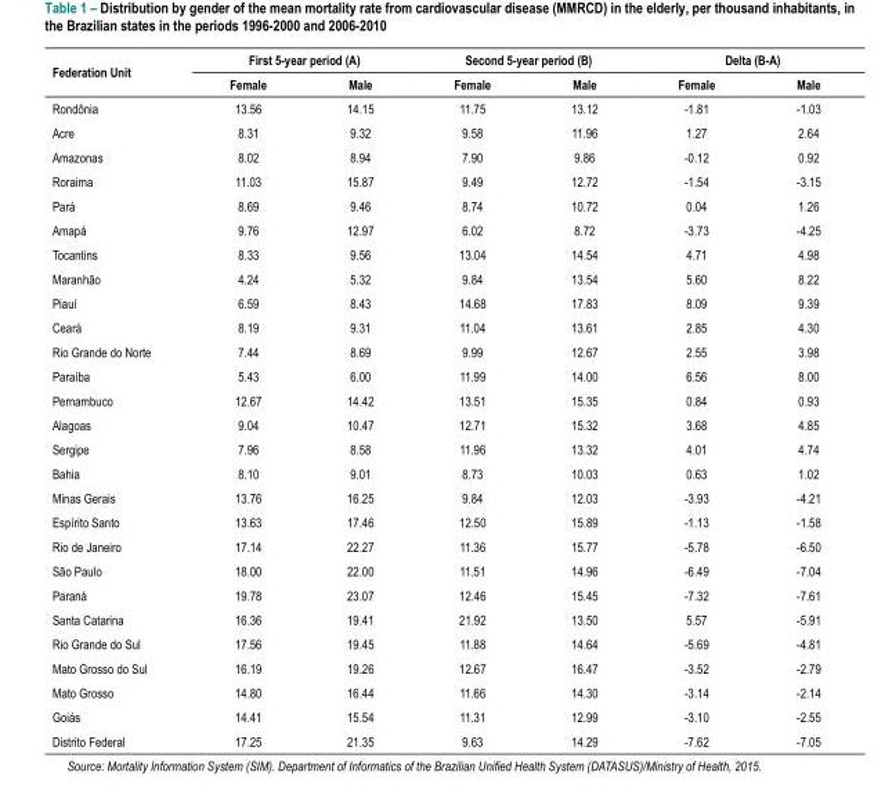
<table><thead><tr><td rowspan="2">Federation Unit</td><td colspan="2">First 5-year period (A)</td><td colspan="2">Second 5-year period (B)</td><td colspan="2">Delta (B-A)</td></tr><tr><td>Female</td><td>Male</td><td>Female</td><td>Male</td><td>Female</td><td>Male</td></tr></thead><tbody><tr><td>Rondônia</td><td>13.56</td><td>14.15</td><td>11.75</td><td>13.12</td><td>-1.81</td><td>-1.03</td></tr><tr><td>Acre</td><td>8.31</td><td>9.32</td><td>9.58</td><td>11.96</td><td>1.27</td><td>2.64</td></tr><tr><td>Amazonas</td><td>8.02</td><td>8.94</td><td>7.90</td><td>9.86</td><td>-0.12</td><td>0.92</td></tr><tr><td>Roraima</td><td>11.03</td><td>15.87</td><td>9.49</td><td>12.72</td><td>-1.54</td><td>-3.15</td></tr><tr><td>Pará</td><td>8.69</td><td>9.46</td><td>8.74</td><td>10.72</td><td>0.04</td><td>1.26</td></tr><tr><td>Amapá</td><td>9.76</td><td>12.97</td><td>6.02</td><td>8.72</td><td>-3.73</td><td>-4.25</td></tr><tr><td>Tocantins</td><td>8.33</td><td>9.56</td><td>13.04</td><td>14.54</td><td>4.71</td><td>4.98</td></tr><tr><td>Maranhão</td><td>4.24</td><td>5.32</td><td>9.84</td><td>13.54</td><td>5.60</td><td>8.22</td></tr><tr><td>Piauí</td><td>6.59</td><td>8.43</td><td>14.68</td><td>17.83</td><td>8.09</td><td>9.39</td></tr><tr><td>Ceará</td><td>8.19</td><td>9.31</td><td>11.04</td><td>13.61</td><td>2.85</td><td>4.30</td></tr><tr><td>Rio Grande do Norte</td><td>7.44</td><td>8.69</td><td>9.99</td><td>12.67</td><td>2.55</td><td>3.98</td></tr><tr><td>Paraíba</td><td>5.43</td><td>6.00</td><td>11.99</td><td>14.00</td><td>6.56</td><td>8.00</td></tr><tr><td>Pernambuco</td><td>12.67</td><td>14.42</td><td>13.51</td><td>15.35</td><td>0.84</td><td>0.93</td></tr><tr><td>Alagoas</td><td>9.04</td><td>10.47</td><td>12.71</td><td>15.32</td><td>3.68</td><td>4.85</td></tr><tr><td>Sergipe</td><td>7.96</td><td>8.58</td><td>11.96</td><td>13.32</td><td>4.01</td><td>4.74</td></tr><tr><td>Bahia</td><td>8.10</td><td>9.01</td><td>8.73</td><td>10.03</td><td>0.63</td><td>1.02</td></tr><tr><td>Minas Gerais</td><td>13.76</td><td>16.25</td><td>9.84</td><td>12.03</td><td>-3.93</td><td>-4.21</td></tr><tr><td>Espírito Santo</td><td>13.63</td><td>17.46</td><td>12.50</td><td>15.89</td><td>-1.13</td><td>-1.58</td></tr><tr><td>Rio de Janeiro</td><td>17.14</td><td>22.27</td><td>11.36</td><td>15.77</td><td>-5.78</td><td>-6.50</td></tr><tr><td>São Paulo</td><td>18.00</td><td>22.00</td><td>11.51</td><td>14.96</td><td>-6.49</td><td>-7.04</td></tr><tr><td>Paraná</td><td>19.78</td><td>23.07</td><td>12.46</td><td>15.45</td><td>-7.32</td><td>-7.61</td></tr><tr><td>Santa Catarina</td><td>16.36</td><td>19.41</td><td>21.92</td><td>13.50</td><td>5.57</td><td>-5.91</td></tr><tr><td>Rio Grande do Sul</td><td>17.56</td><td>19.45</td><td>11.88</td><td>14.64</td><td>-5.69</td><td>-4.81</td></tr><tr><td>Mato Grosso do Sul</td><td>16.19</td><td>19.26</td><td>12.67</td><td>16.47</td><td>-3.52</td><td>-2.79</td></tr><tr><td>Mato Grosso</td><td>14.80</td><td>16.44</td><td>11.66</td><td>14.30</td><td>-3.14</td><td>-2.14</td></tr><tr><td>Goiás</td><td>14.41</td><td>15.54</td><td>11.31</td><td>12.99</td><td>-3.10</td><td>-2.55</td></tr><tr><td>Distrito Federal</td><td>17.25</td><td>21.35</td><td>9.63</td><td>14.29</td><td>-7.62</td><td>-7.05</td></tr></tbody></table>